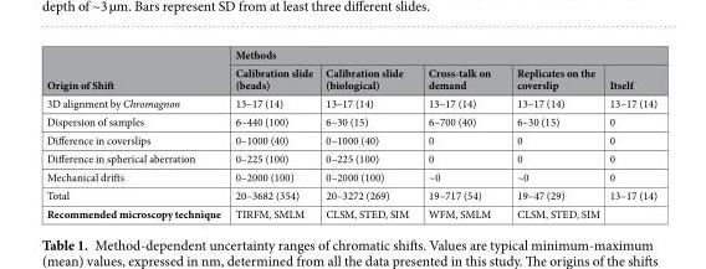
<table><thead><tr><td rowspan="2">Origin of Shift</td><td colspan="5">Methods</td></tr><tr><td>Calibration slide (beads)</td><td>Calibration slide (biological)</td><td>Cross-talk on demand</td><td>Replicates on the coverslip</td><td>Itself</td></tr></thead><tbody><tr><td>3D alignment by Chromagnon</td><td>13–17 (14)</td><td>13–17 (14)</td><td>13–17 (14)</td><td>13–17 (14)</td><td>13–17 (14)</td></tr><tr><td>Dispersion of samples</td><td>6–440 (100)</td><td>6–30 (15)</td><td>6–700 (40)</td><td>6–30 (15)</td><td>0</td></tr><tr><td>Difference in coverslips</td><td>0–1000 (40)</td><td>0–1000 (40)</td><td>0</td><td>0</td><td>0</td></tr><tr><td>Difference in spherical aberration</td><td>0–225 (100)</td><td>0–225 (100)</td><td>0</td><td>0</td><td>0</td></tr><tr><td>Mechanical drifts</td><td>0–2000 (100)</td><td>0–2000 (100)</td><td>~0</td><td>~0</td><td>0</td></tr><tr><td>Total</td><td>20–3682 (354)</td><td>20–3272 (269)</td><td>19–717 (54)</td><td>19–47 (29)</td><td>13–17 (14)</td></tr><tr><td>Recommended microscopy technique</td><td>TIRFM, SMLM</td><td>CLSM, STED, SIM</td><td>WFM, SMLM</td><td>CLSM, STED, SIM</td><td></td></tr></tbody></table>